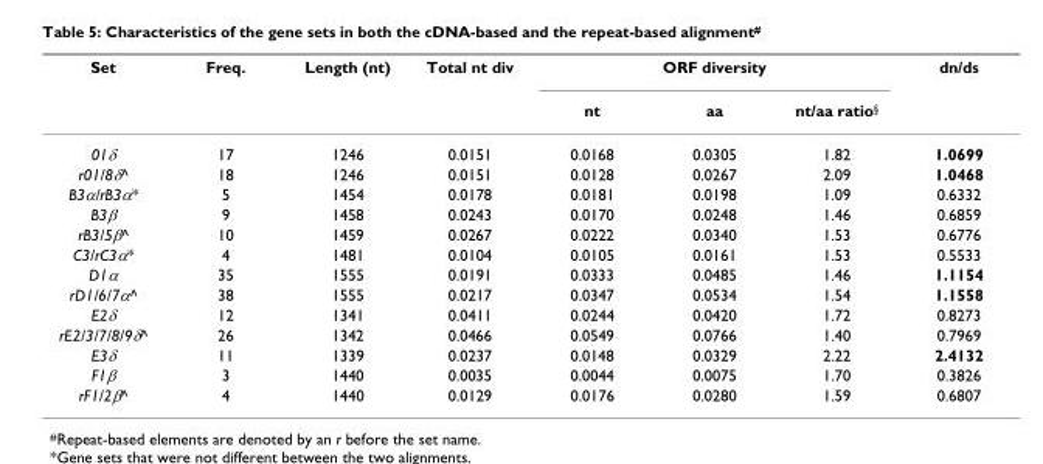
<table><thead><tr><td rowspan="2">Set</td><td rowspan="2">Freq.</td><td rowspan="2">Length (nt)</td><td rowspan="2">Total nt div</td><td colspan="3">ORF diversity</td><td rowspan="2">dn/ds</td></tr><tr><td>nt</td><td>aa</td><td>nt/aa ratio<sup>§</sup></td></tr></thead><tbody><tr><td>01δ</td><td>17</td><td>1246</td><td>0.0151</td><td>0.0168</td><td>0.0305</td><td>1.82</td><td>1.0699</td></tr><tr><td>r01/8δ^</td><td>18</td><td>1246</td><td>0.0151</td><td>0.0128</td><td>0.0267</td><td>2.09</td><td>1.0468</td></tr><tr><td>B3α/rB3α*</td><td>5</td><td>1454</td><td>0.0178</td><td>0.0181</td><td>0.0198</td><td>1.09</td><td>0.6332</td></tr><tr><td>B3β</td><td>9</td><td>1458</td><td>0.0243</td><td>0.0170</td><td>0.0248</td><td>1.46</td><td>0.6859</td></tr><tr><td>rB3/5β^</td><td>10</td><td>1459</td><td>0.0267</td><td>0.0222</td><td>0.0340</td><td>1.53</td><td>0.6776</td></tr><tr><td>C3/rC3α*</td><td>4</td><td>1481</td><td>0.0104</td><td>0.0105</td><td>0.0161</td><td>1.53</td><td>0.5533</td></tr><tr><td>D1α</td><td>35</td><td>1555</td><td>0.0191</td><td>0.0333</td><td>0.0485</td><td>1.46</td><td>1.1154</td></tr><tr><td>rD1/6/7α^</td><td>38</td><td>1555</td><td>0.0217</td><td>0.0347</td><td>0.0534</td><td>1.54</td><td>1.1558</td></tr><tr><td>E2δ</td><td>12</td><td>1341</td><td>0.0411</td><td>0.0244</td><td>0.0420</td><td>1.72</td><td>0.8273</td></tr><tr><td>rE2/3/7/8/9δ^</td><td>26</td><td>1342</td><td>0.0466</td><td>0.0549</td><td>0.0766</td><td>1.40</td><td>0.7969</td></tr><tr><td>E3δ</td><td>11</td><td>1339</td><td>0.0237</td><td>0.0148</td><td>0.0329</td><td>2.22</td><td>2.4132</td></tr><tr><td>F1β</td><td>3</td><td>1440</td><td>0.0035</td><td>0.0044</td><td>0.0075</td><td>1.70</td><td>0.3826</td></tr><tr><td>rF1/2β^</td><td>4</td><td>1440</td><td>0.0129</td><td>0.0176</td><td>0.0280</td><td>1.59</td><td>0.6807</td></tr></tbody></table>